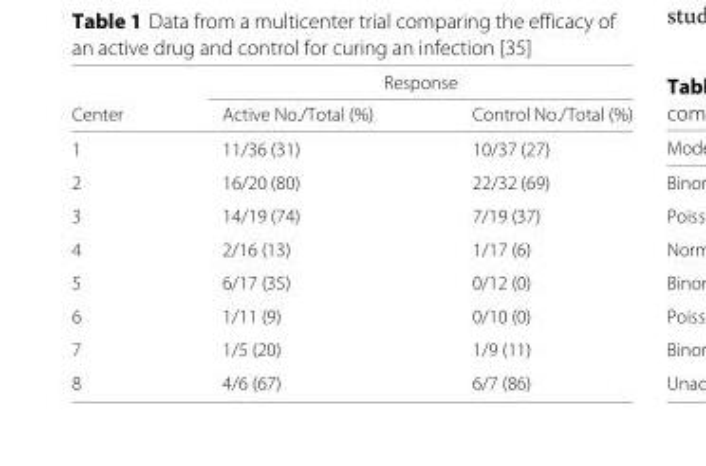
<table><thead><tr><td rowspan="2">Center</td><td colspan="2">Response</td></tr><tr><td>Active No./Total (%)</td><td>Control No./Total (%)</td></tr></thead><tbody><tr><td>1</td><td>11/36 (31)</td><td>10/37 (27)</td></tr><tr><td>2</td><td>16/20 (80)</td><td>22/32 (69)</td></tr><tr><td>3</td><td>14/19 (74)</td><td>7/19 (37)</td></tr><tr><td>4</td><td>2/16 (13)</td><td>1/17 (6)</td></tr><tr><td>5</td><td>6/17 (35)</td><td>0/12 (0)</td></tr><tr><td>6</td><td>1/11 (9)</td><td>0/10 (0)</td></tr><tr><td>7</td><td>1/5 (20)</td><td>1/9 (11)</td></tr><tr><td>8</td><td>4/6 (67)</td><td>6/7 (86)</td></tr></tbody></table>